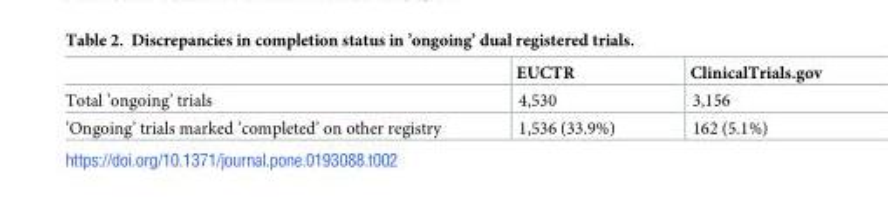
<table><thead><tr><td></td><td>EUCTR</td><td>ClinicalTrials.gov</td></tr></thead><tbody><tr><td>Total ’ongoing’ trials</td><td>4,530</td><td>3,156</td></tr><tr><td>’Ongoing’ trials marked ’completed’ on other registry</td><td>1,536 (33.9%)</td><td>162 (5.1%)</td></tr></tbody></table>